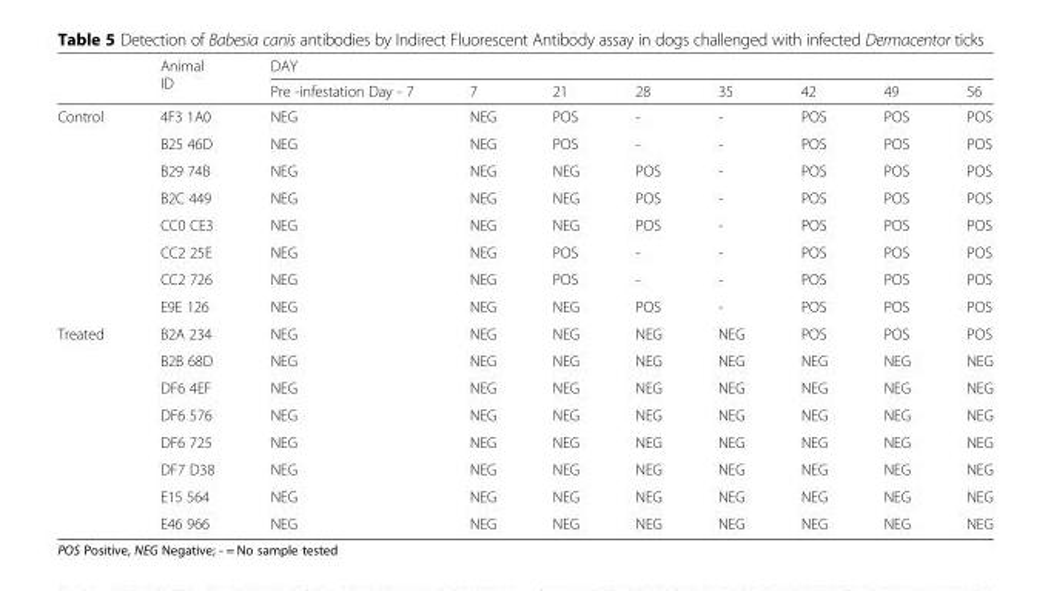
<table><thead><tr><td rowspan="2"></td><td rowspan="2">Animal ID</td><td colspan="8">DAY</td></tr><tr><td>Pre -infestation Day - 7</td><td>7</td><td>21</td><td>28</td><td>35</td><td>42</td><td>49</td><td>56</td></tr></thead><tbody><tr><td rowspan="8">Control</td><td>4F3 1A0</td><td>NEG</td><td>NEG</td><td>POS</td><td>-</td><td>-</td><td>POS</td><td>POS</td><td>POS</td></tr><tr><td>B25 46D</td><td>NEG</td><td>NEG</td><td>POS</td><td>-</td><td>-</td><td>POS</td><td>POS</td><td>POS</td></tr><tr><td>B29 74B</td><td>NEG</td><td>NEG</td><td>NEG</td><td>POS</td><td>-</td><td>POS</td><td>POS</td><td>POS</td></tr><tr><td>B2C 449</td><td>NEG</td><td>NEG</td><td>NEG</td><td>POS</td><td>-</td><td>POS</td><td>POS</td><td>POS</td></tr><tr><td>CC0 CE3</td><td>NEG</td><td>NEG</td><td>NEG</td><td>POS</td><td>-</td><td>POS</td><td>POS</td><td>POS</td></tr><tr><td>CC2 25E</td><td>NEG</td><td>NEG</td><td>POS</td><td>-</td><td>-</td><td>POS</td><td>POS</td><td>POS</td></tr><tr><td>CC2 726</td><td>NEG</td><td>NEG</td><td>POS</td><td>-</td><td>-</td><td>POS</td><td>POS</td><td>POS</td></tr><tr><td>E9E 126</td><td>NEG</td><td>NEG</td><td>NEG</td><td>POS</td><td>-</td><td>POS</td><td>POS</td><td>POS</td></tr><tr><td rowspan="8">Treated</td><td>B2A 234</td><td>NEG</td><td>NEG</td><td>NEG</td><td>NEG</td><td>NEG</td><td>POS</td><td>POS</td><td>POS</td></tr><tr><td>B2B 68D</td><td>NEG</td><td>NEG</td><td>NEG</td><td>NEG</td><td>NEG</td><td>NEG</td><td>NEG</td><td>NEG</td></tr><tr><td>DF6 4EF</td><td>NEG</td><td>NEG</td><td>NEG</td><td>NEG</td><td>NEG</td><td>NEG</td><td>NEG</td><td>NEG</td></tr><tr><td>DF6 576</td><td>NEG</td><td>NEG</td><td>NEG</td><td>NEG</td><td>NEG</td><td>NEG</td><td>NEG</td><td>NEG</td></tr><tr><td>DF6 725</td><td>NEG</td><td>NEG</td><td>NEG</td><td>NEG</td><td>NEG</td><td>NEG</td><td>NEG</td><td>NEG</td></tr><tr><td>DF7 D38</td><td>NEG</td><td>NEG</td><td>NEG</td><td>NEG</td><td>NEG</td><td>NEG</td><td>NEG</td><td>NEG</td></tr><tr><td>E15 564</td><td>NEG</td><td>NEG</td><td>NEG</td><td>NEG</td><td>NEG</td><td>NEG</td><td>NEG</td><td>NEG</td></tr><tr><td>E46 966</td><td>NEG</td><td>NEG</td><td>NEG</td><td>NEG</td><td>NEG</td><td>NEG</td><td>NEG</td><td>NEG</td></tr></tbody></table>